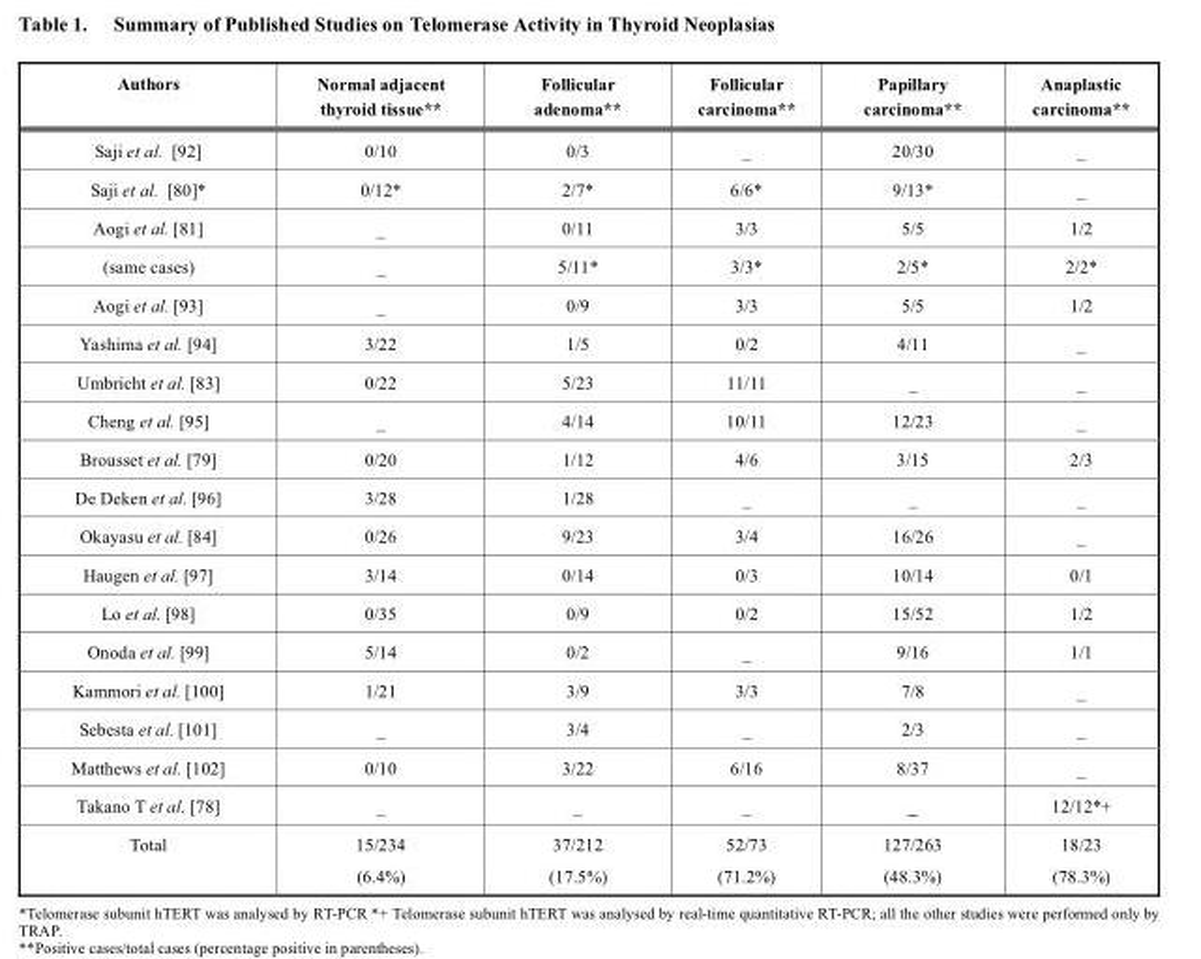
<table><thead><tr><td>Authors</td><td>Normal adjacent thyroid tissue**</td><td>Follicular adenoma**</td><td>Follicular carcinoma**</td><td>Papillary carcinoma**</td><td>Anaplastic carcinoma**</td></tr></thead><tbody><tr><td>Saji et al. [92]</td><td>0/10</td><td>0/3</td><td>_</td><td>20/30</td><td>_</td></tr><tr><td>Saji et al. [80]*</td><td>0/12*</td><td>2/7*</td><td>6/6*</td><td>9/13*</td><td>_</td></tr><tr><td>Aogi et al. [81]</td><td>_</td><td>0/11</td><td>3/3</td><td>5/5</td><td>1/2</td></tr><tr><td>(same cases)</td><td>_</td><td>5/11*</td><td>3/3*</td><td>2/5*</td><td>2/2*</td></tr><tr><td>Aogi et al. [93]</td><td>_</td><td>0/9</td><td>3/3</td><td>5/5</td><td>1/2</td></tr><tr><td>Yashima et al. [94]</td><td>3/22</td><td>1/5</td><td>0/2</td><td>4/11</td><td>_</td></tr><tr><td>Umbricht et al. [83]</td><td>0/22</td><td>5/23</td><td>11/11</td><td>_</td><td>_</td></tr><tr><td>Cheng et al. [95]</td><td>_</td><td>4/14</td><td>10/11</td><td>12/23</td><td>_</td></tr><tr><td>Brousset et al. [79]</td><td>0/20</td><td>1/12</td><td>4/6</td><td>3/15</td><td>2/3</td></tr><tr><td>De Deken et al. [96]</td><td>3/28</td><td>1/28</td><td>_</td><td>_</td><td>_</td></tr><tr><td>Okayasu et al. [84]</td><td>0/26</td><td>9/23</td><td>3/4</td><td>16/26</td><td>_</td></tr><tr><td>Haugen et al. [97]</td><td>3/14</td><td>0/14</td><td>0/3</td><td>10/14</td><td>0/1</td></tr><tr><td>Lo et al. [98]</td><td>0/35</td><td>0/9</td><td>0/2</td><td>15/52</td><td>1/2</td></tr><tr><td>Onoda et al. [99]</td><td>5/14</td><td>0/2</td><td>_</td><td>9/16</td><td>1/1</td></tr><tr><td>Kammori et al. [100]</td><td>1/21</td><td>3/9</td><td>3/3</td><td>7/8</td><td>_</td></tr><tr><td>Sebesta et al. [101]</td><td>_</td><td>3/4</td><td>_</td><td>2/3</td><td>_</td></tr><tr><td>Matthews et al. [102]</td><td>0/10</td><td>3/22</td><td>6/16</td><td>8/37</td><td>_</td></tr><tr><td>Takano T et al. [78]</td><td>_</td><td>_</td><td>_</td><td>_</td><td>12/12*+</td></tr><tr><td>Total</td><td>15/234 (6.4%)</td><td>37/212 (17.5%)</td><td>52/73 (71.2%)</td><td>127/263 (48.3%)</td><td>18/23 (78.3%)</td></tr></tbody></table>